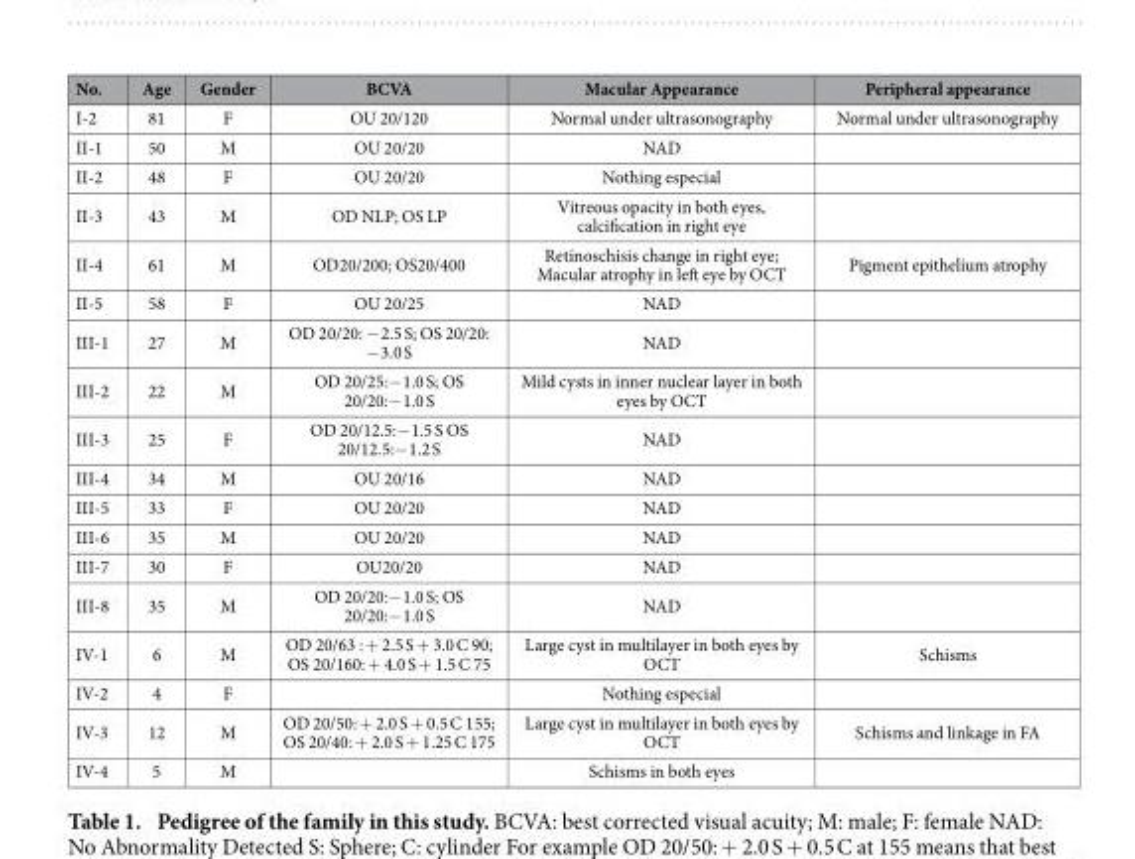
<table><thead><tr><td>No.</td><td>Age</td><td>Gender</td><td>BCVA</td><td>Macular Appearance</td><td>Peripheral appearance</td></tr></thead><tbody><tr><td>I-2</td><td>81</td><td>F</td><td>OU 20/120</td><td>Normal under ultrasonography</td><td>Normal under ultrasonography</td></tr><tr><td>II-1</td><td>50</td><td>M</td><td>OU 20/20</td><td>NAD</td><td></td></tr><tr><td>II-2</td><td>48</td><td>F</td><td>OU 20/20</td><td>Nothing especial</td><td></td></tr><tr><td>II-3</td><td>43</td><td>M</td><td>OD NLP; OS LP</td><td>Vitreous opacity in both eyes, calcification in right eye</td><td></td></tr><tr><td>II-4</td><td>61</td><td>M</td><td>OD20/200; OS20/400</td><td>Retinoschisis change in right eye; Macular atrophy in left eye by OCT</td><td>Pigment epithelium atrophy</td></tr><tr><td>II-5</td><td>58</td><td>F</td><td>OU 20/25</td><td>NAD</td><td></td></tr><tr><td>III-1</td><td>27</td><td>M</td><td>OD 20/20: − 2.5 S; OS 20/20: − 3.0 S</td><td>NAD</td><td></td></tr><tr><td>III-2</td><td>22</td><td>M</td><td>OD 20/25:− 1.0 S; OS 20/20:− 1.0 S</td><td>Mild cysts in inner nuclear layer in both eyes by OCT</td><td></td></tr><tr><td>III-3</td><td>25</td><td>F</td><td>OD 20/12.5:− 1.5 S OS 20/12.5:− 1.2 S</td><td>NAD</td><td></td></tr><tr><td>III-4</td><td>34</td><td>M</td><td>OU 20/16</td><td>NAD</td><td></td></tr><tr><td>III-5</td><td>33</td><td>F</td><td>OU 20/20</td><td>NAD</td><td></td></tr><tr><td>III-6</td><td>35</td><td>M</td><td>OU 20/20</td><td>NAD</td><td></td></tr><tr><td>III-7</td><td>30</td><td>F</td><td>OU20/20</td><td>NAD</td><td></td></tr><tr><td>III-8</td><td>35</td><td>M</td><td>OD 20/20:− 1.0 S; OS 20/20:− 1.0 S</td><td>NAD</td><td></td></tr><tr><td>IV-1</td><td>6</td><td>M</td><td>OD 20/63 : + 2.5 S + 3.0 C 90; OS 20/160: + 4.0 S + 1.5 C 75</td><td>Large cyst in multilayer in both eyes by OCT</td><td>Schisms</td></tr><tr><td>IV-2</td><td>4</td><td>F</td><td></td><td>Nothing especial</td><td></td></tr><tr><td>IV-3</td><td>12</td><td>M</td><td>OD 20/50: + 2.0 S + 0.5 C 155; OS 20/40: + 2.0 S + 1.25 C 175</td><td>Large cyst in multilayer in both eyes by OCT</td><td>Schisms and linkage in FA</td></tr><tr><td>IV-4</td><td>5</td><td>M</td><td></td><td>Schisms in both eyes</td><td></td></tr></tbody></table>